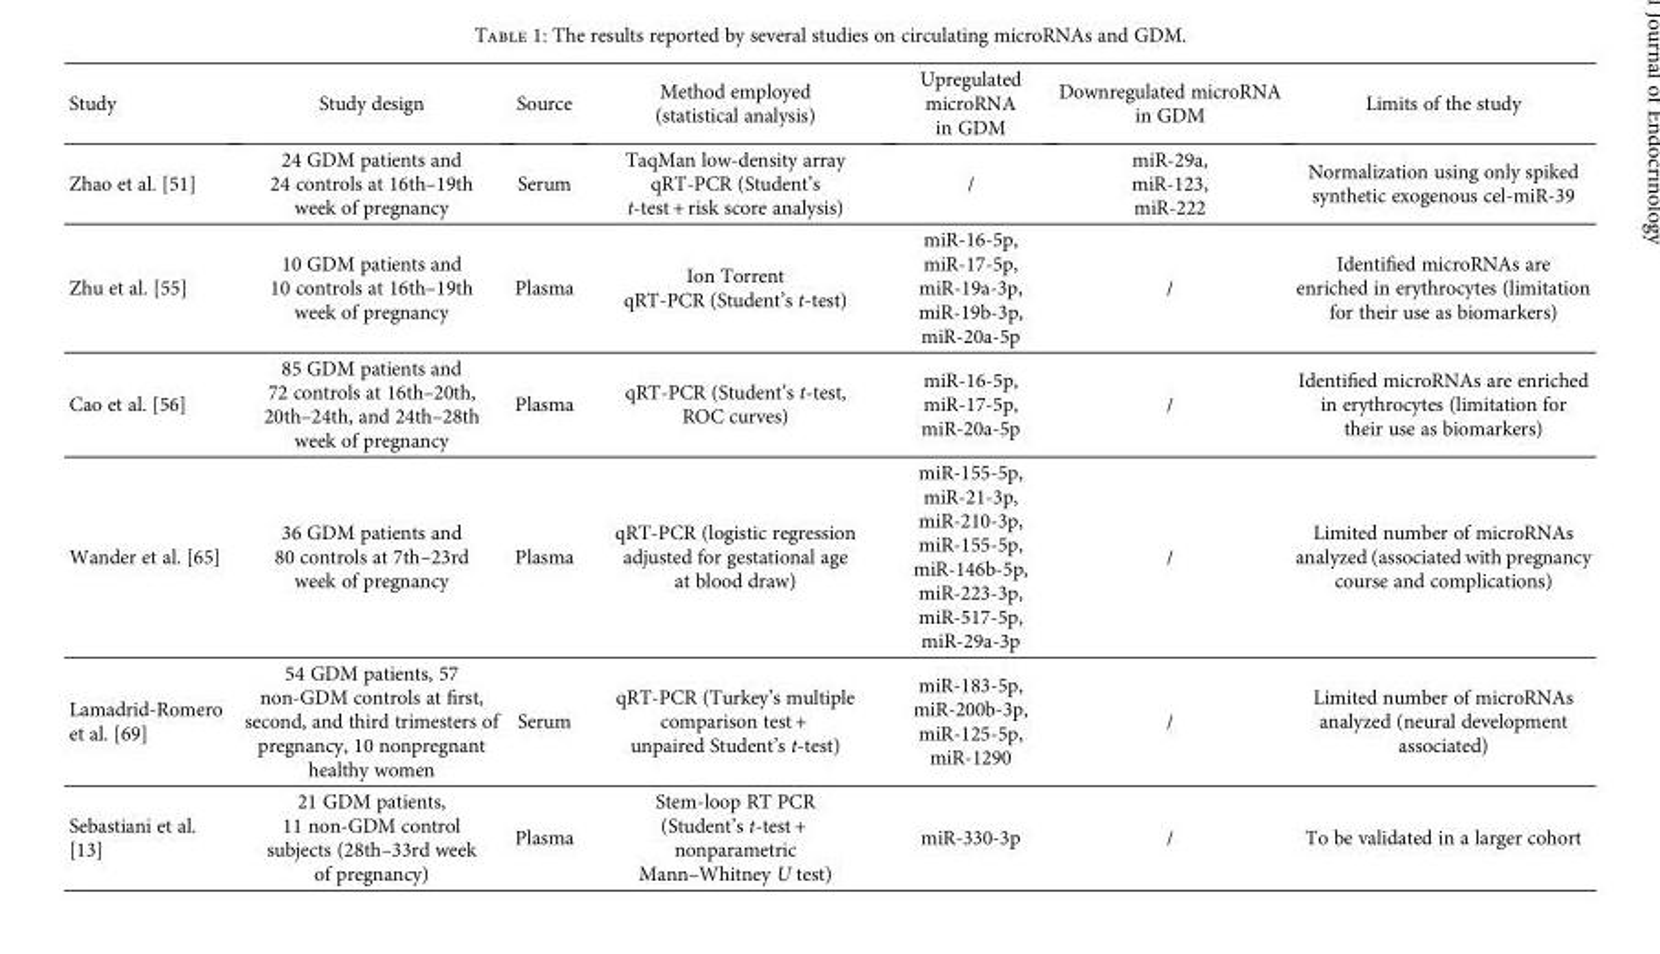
<table><thead><tr><td>Study</td><td>Study design</td><td>Source</td><td>Method employed (statistical analysis)</td><td>Upregulated microRNA in GDM</td><td>Downregulated microRNA in GDM</td><td>Limits of the study</td></tr></thead><tbody><tr><td>Zhao et al. [51]</td><td>24 GDM patients and 24 controls at 16th–19th week of pregnancy</td><td>Serum</td><td>TaqMan low-density array qRT-PCR (Student’s t-test + risk score analysis)</td><td>/</td><td>miR-29a, miR-123, miR-222</td><td>Normalization using only spiked synthetic exogenous cel-miR-39</td></tr><tr><td>Zhu et al. [55]</td><td>10 GDM patients and 10 controls at 16th–19th week of pregnancy</td><td>Plasma</td><td>Ion Torrent qRT-PCR (Student’s t-test)</td><td>miR-16-5p, miR-17-5p, miR-19a-3p, miR-19b-3p, miR-20a-5p</td><td>/</td><td>Identified microRNAs are enriched in erythrocytes (limitation for their use as biomarkers)</td></tr><tr><td>Cao et al. [56]</td><td>85 GDM patients and 72 controls at 16th–20th, 20th–24th, and 24th–28th week of pregnancy</td><td>Plasma</td><td>qRT-PCR (Student’s t-test, ROC curves)</td><td>miR-16-5p, miR-17-5p, miR-20a-5p</td><td>/</td><td>Identified microRNAs are enriched in erythrocytes (limitation for their use as biomarkers)</td></tr><tr><td>Wander et al. [65]</td><td>36 GDM patients and 80 controls at 7th–23rd week of pregnancy</td><td>Plasma</td><td>qRT-PCR (logistic regression adjusted for gestational age at blood draw)</td><td>miR-155-5p, miR-21-3p, miR-210-3p, miR-155-5p, miR-146b-5p, miR-223-3p, miR-517-5p, miR-29a-3p</td><td>/</td><td>Limited number of microRNAs analyzed (associated with pregnancy course and complications)</td></tr><tr><td>Lamadrid-Romero et al. [69]</td><td>54 GDM patients, 57 non-GDM controls at first, second, and third trimesters of pregnancy, 10 nonpregnant healthy women</td><td>Serum</td><td>qRT-PCR (Turkey’s multiple comparison test + unpaired Student’s t-test)</td><td>miR-183-5p, miR-200b-3p, miR-125-5p, miR-1290</td><td>/</td><td>Limited number of microRNAs analyzed (neural development associated)</td></tr><tr><td>Sebastiani et al. [13]</td><td>21 GDM patients, 11 non-GDM control subjects (28th–33rd week of pregnancy)</td><td>Plasma</td><td>Stem-loop RT PCR (Student’s t-test + nonparametric Mann–Whitney U test)</td><td>miR-330-3p</td><td>/</td><td>To be validated in a larger cohort</td></tr></tbody></table>